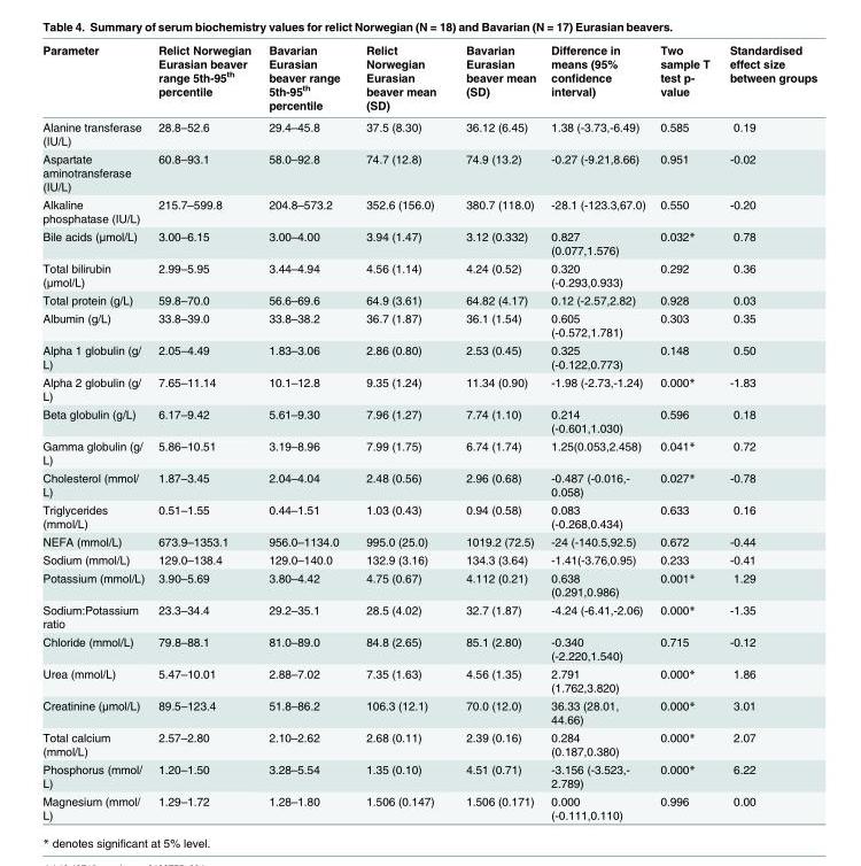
<table><thead><tr><td>Parameter</td><td>Relict Norwegian Eurasian beaver range 5th-95<sup>th</sup> percentile</td><td>Bavarian Eurasian beaver range 5th-95<sup>th</sup> percentile</td><td>Relict Norwegian Eurasian beaver mean (SD)</td><td>Bavarian Eurasian beaver mean (SD)</td><td>Difference in means (95% confidence interval)</td><td>Two sample T test p- value</td><td>Standardised effect size between groups</td></tr></thead><tbody><tr><td>Alanine transferase (IU/L)</td><td>28.8–52.6</td><td>29.4–45.8</td><td>37.5 (8.30)</td><td>36.12 (6.45)</td><td>1.38 (-3.73,-6.49)</td><td>0.585</td><td>0.19</td></tr><tr><td>Aspartate aminotransferase (IU/L)</td><td>60.8–93.1</td><td>58.0–92.8</td><td>74.7 (12.8)</td><td>74.9 (13.2)</td><td>-0.27 (-9.21,8.66)</td><td>0.951</td><td>-0.02</td></tr><tr><td>Alkaline phosphatase (IU/L)</td><td>215.7–599.8</td><td>204.8–573.2</td><td>352.6 (156.0)</td><td>380.7 (118.0)</td><td>-28.1 (-123.3,67.0)</td><td>0.550</td><td>-0.20</td></tr><tr><td>Bile acids (μmol/L)</td><td>3.00–6.15</td><td>3.00–4.00</td><td>3.94 (1.47)</td><td>3.12 (0.332)</td><td>0.827 (0.077,1.576)</td><td>0.032*</td><td>0.78</td></tr><tr><td>Total bilirubin (μmol/L)</td><td>2.99–5.95</td><td>3.44–4.94</td><td>4.56 (1.14)</td><td>4.24 (0.52)</td><td>0.320 (-0.293,0.933)</td><td>0.292</td><td>0.36</td></tr><tr><td>Total protein (g/L)</td><td>59.8–70.0</td><td>56.6–69.6</td><td>64.9 (3.61)</td><td>64.82 (4.17)</td><td>0.12 (-2.57,2.82)</td><td>0.928</td><td>0.03</td></tr><tr><td>Albumin (g/L)</td><td>33.8–39.0</td><td>33.8–38.2</td><td>36.7 (1.87)</td><td>36.1 (1.54)</td><td>0.605 (-0.572,1.781)</td><td>0.303</td><td>0.35</td></tr><tr><td>Alpha 1 globulin (g/ L)</td><td>2.05–4.49</td><td>1.83–3.06</td><td>2.86 (0.80)</td><td>2.53 (0.45)</td><td>0.325 (-0.122,0.773)</td><td>0.148</td><td>0.50</td></tr><tr><td>Alpha 2 globulin (g/ L)</td><td>7.65–11.14</td><td>10.1–12.8</td><td>9.35 (1.24)</td><td>11.34 (0.90)</td><td>-1.98 (-2.73,-1.24)</td><td>0.000*</td><td>-1.83</td></tr><tr><td>Beta globulin (g/L)</td><td>6.17–9.42</td><td>5.61–9.30</td><td>7.96 (1.27)</td><td>7.74 (1.10)</td><td>0.214 (-0.601,1.030)</td><td>0.596</td><td>0.18</td></tr><tr><td>Gamma globulin (g/ L)</td><td>5.86–10.51</td><td>3.19–8.96</td><td>7.99 (1.75)</td><td>6.74 (1.74)</td><td>1.25(0.053,2.458)</td><td>0.041*</td><td>0.72</td></tr><tr><td>Cholesterol (mmol/ L)</td><td>1.87–3.45</td><td>2.04–4.04</td><td>2.48 (0.56)</td><td>2.96 (0.68)</td><td>-0.487 (-0.016,- 0.058)</td><td>0.027*</td><td>-0.78</td></tr><tr><td>Triglycerides (mmol/L)</td><td>0.51–1.55</td><td>0.44–1.51</td><td>1.03 (0.43)</td><td>0.94 (0.58)</td><td>0.083 (-0.268,0.434)</td><td>0.633</td><td>0.16</td></tr><tr><td>NEFA (mmol/L)</td><td>673.9–1353.1</td><td>956.0–1134.0</td><td>995.0 (25.0)</td><td>1019.2 (72.5)</td><td>-24 (-140.5,92.5)</td><td>0.672</td><td>-0.44</td></tr><tr><td>Sodium (mmol/L)</td><td>129.0–138.4</td><td>129.0–140.0</td><td>132.9 (3.16)</td><td>134.3 (3.64)</td><td>-1.41(-3.76,0.95)</td><td>0.233</td><td>-0.41</td></tr><tr><td>Potassium (mmol/L)</td><td>3.90–5.69</td><td>3.80–4.42</td><td>4.75 (0.67)</td><td>4.112 (0.21)</td><td>0.638 (0.291,0.986)</td><td>0.001*</td><td>1.29</td></tr><tr><td>Sodium:Potassium ratio</td><td>23.3–34.4</td><td>29.2–35.1</td><td>28.5 (4.02)</td><td>32.7 (1.87)</td><td>-4.24 (-6.41,-2.06)</td><td>0.000*</td><td>-1.35</td></tr><tr><td>Chloride (mmol/L)</td><td>79.8–88.1</td><td>81.0–89.0</td><td>84.8 (2.65)</td><td>85.1 (2.80)</td><td>-0.340 (-2.220,1.540)</td><td>0.715</td><td>-0.12</td></tr><tr><td>Urea (mmol/L)</td><td>5.47–10.01</td><td>2.88–7.02</td><td>7.35 (1.63)</td><td>4.56 (1.35)</td><td>2.791 (1.762,3.820)</td><td>0.000*</td><td>1.86</td></tr><tr><td>Creatinine (μmol/L)</td><td>89.5–123.4</td><td>51.8–86.2</td><td>106.3 (12.1)</td><td>70.0 (12.0)</td><td>36.33 (28.01, 44.66)</td><td>0.000*</td><td>3.01</td></tr><tr><td>Total calcium (mmol/L)</td><td>2.57–2.80</td><td>2.10–2.62</td><td>2.68 (0.11)</td><td>2.39 (0.16)</td><td>0.284 (0.187,0.380)</td><td>0.000*</td><td>2.07</td></tr><tr><td>Phosphorus (mmol/ L)</td><td>1.20–1.50</td><td>3.28–5.54</td><td>1.35 (0.10)</td><td>4.51 (0.71)</td><td>-3.156 (-3.523,- 2.789)</td><td>0.000*</td><td>6.22</td></tr><tr><td>Magnesium (mmol/ L)</td><td>1.29–1.72</td><td>1.28–1.80</td><td>1.506 (0.147)</td><td>1.506 (0.171)</td><td>0.000 (-0.111,0.110)</td><td>0.996</td><td>0.00</td></tr></tbody></table>